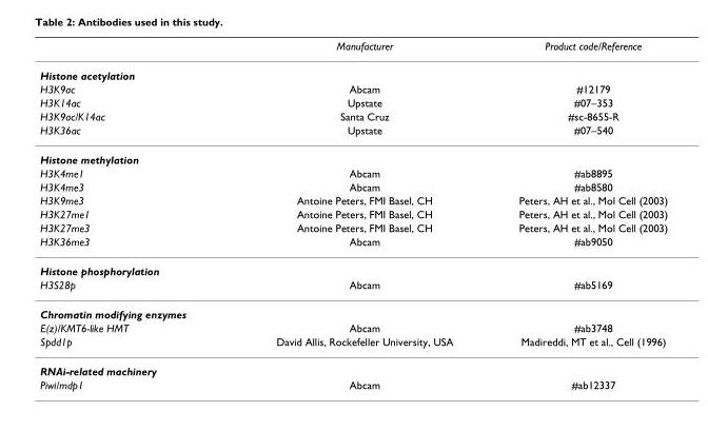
<table><thead><tr><td></td><td>Manufacturer</td><td>Product code/Reference</td></tr></thead><tbody><tr><td colspan="3">Histone acetylation</td></tr><tr><td>H3K9ac</td><td>Abcam</td><td>#12179</td></tr><tr><td>H3K14ac</td><td>Upstate</td><td>#07–353</td></tr><tr><td>H3K9ac/K14ac</td><td>Santa Cruz</td><td>#sc-8655-R</td></tr><tr><td>H3K36ac</td><td>Upstate</td><td>#07–540</td></tr><tr><td colspan="3">Histone methylation</td></tr><tr><td>H3K4me1</td><td>Abcam</td><td>#ab8895</td></tr><tr><td>H3K4me3</td><td>Abcam</td><td>#ab8580</td></tr><tr><td>H3K9me3</td><td>Antoine Peters, FMI Basel, CH</td><td>Peters, AH et al., Mol Cell (2003)</td></tr><tr><td>H3K27me1</td><td>Antoine Peters, FMI Basel, CH</td><td>Peters, AH et al., Mol Cell (2003)</td></tr><tr><td>H3K27me3</td><td>Antoine Peters, FMI Basel, CH</td><td>Peters, AH et al., Mol Cell (2003)</td></tr><tr><td>H3K36me3</td><td>Abcam</td><td>#ab9050</td></tr><tr><td colspan="3">Histone phosphorylation</td></tr><tr><td>H3S28p</td><td>Abcam</td><td>#ab5169</td></tr><tr><td colspan="3">Chromatin modifying enzymes</td></tr><tr><td>E(z)/KMT6-like HMT</td><td>Abcam</td><td>#ab3748</td></tr><tr><td>Spdd1p</td><td>David Allis, Rockefeller University, USA</td><td>Madireddi, MT et al., Cell (1996)</td></tr><tr><td colspan="3">RNAi-related machinery</td></tr><tr><td>Piwi/mdp1</td><td>Abcam</td><td>#ab12337</td></tr></tbody></table>